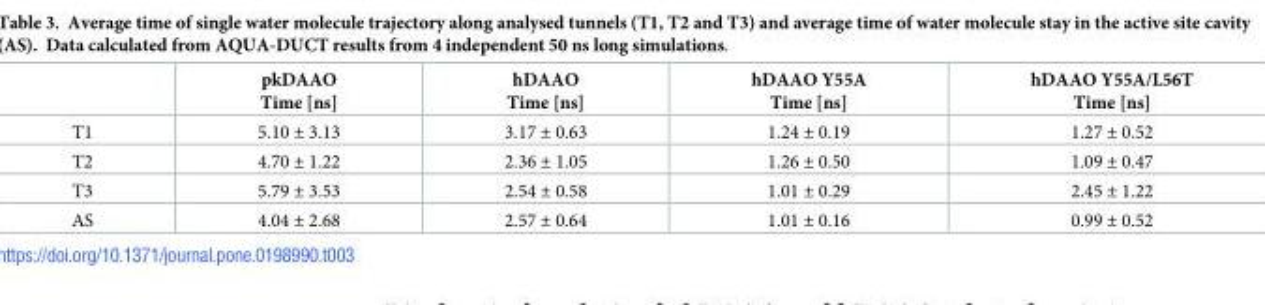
<table><thead><tr><td></td><td>pkDAAO Time [ns]</td><td>hDAAO Time [ns]</td><td>hDAAO Y55A Time [ns]</td><td>hDAAO Y55A/L56T Time [ns]</td></tr></thead><tbody><tr><td>T1</td><td>5.10 ± 3.13</td><td>3.17 ± 0.63</td><td>1.24 ± 0.19</td><td>1.27 ± 0.52</td></tr><tr><td>T2</td><td>4.70 ± 1.22</td><td>2.36 ± 1.05</td><td>1.26 ± 0.50</td><td>1.09 ± 0.47</td></tr><tr><td>T3</td><td>5.79 ± 3.53</td><td>2.54 ± 0.58</td><td>1.01 ± 0.29</td><td>2.45 ± 1.22</td></tr><tr><td>AS</td><td>4.04 ± 2.68</td><td>2.57 ± 0.64</td><td>1.01 ± 0.16</td><td>0.99 ± 0.52</td></tr></tbody></table>